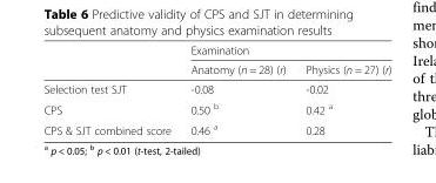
<table><thead><tr><td rowspan="2"></td><td colspan="2">Examination</td></tr><tr><td>Anatomy (n = 28) (r)</td><td>Physics (n = 27) (r)</td></tr></thead><tbody><tr><td>Selection test SJT</td><td>-0.08</td><td>-0.02</td></tr><tr><td>CPS</td><td>0.50 <sup>b</sup></td><td>0.42 <sup>a</sup></td></tr><tr><td>CPS &amp; SJT combined score</td><td>0.46 <sup>a</sup></td><td>0.28</td></tr></tbody></table>